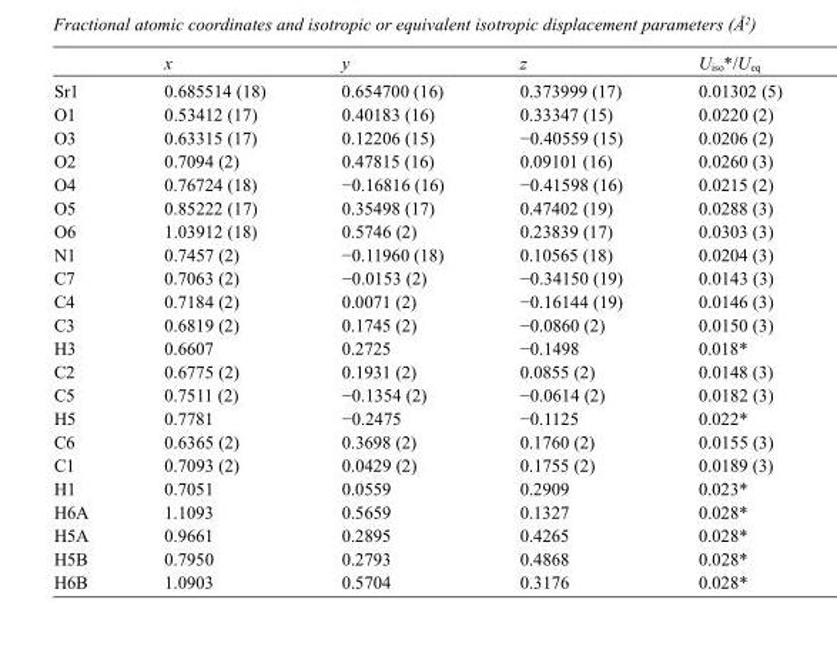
<table><thead><tr><td></td><td>x</td><td>y</td><td>z</td><td>U<sub>iso</sub>*/U<sub>eq</sub></td></tr></thead><tbody><tr><td>Sr1</td><td>0.685514 (18)</td><td>0.654700 (16)</td><td>0.373999 (17)</td><td>0.01302 (5)</td></tr><tr><td>O1</td><td>0.53412 (17)</td><td>0.40183 (16)</td><td>0.33347 (15)</td><td>0.0220 (2)</td></tr><tr><td>O3</td><td>0.63315 (17)</td><td>0.12206 (15)</td><td>−0.40559 (15)</td><td>0.0206 (2)</td></tr><tr><td>O2</td><td>0.7094 (2)</td><td>0.47815 (16)</td><td>0.09101 (16)</td><td>0.0260 (3)</td></tr><tr><td>O4</td><td>0.76724 (18)</td><td>−0.16816 (16)</td><td>−0.41598 (16)</td><td>0.0215 (2)</td></tr><tr><td>O5</td><td>0.85222 (17)</td><td>0.35498 (17)</td><td>0.47402 (19)</td><td>0.0288 (3)</td></tr><tr><td>O6</td><td>1.03912 (18)</td><td>0.5746 (2)</td><td>0.23839 (17)</td><td>0.0303 (3)</td></tr><tr><td>N1</td><td>0.7457 (2)</td><td>−0.11960 (18)</td><td>0.10565 (18)</td><td>0.0204 (3)</td></tr><tr><td>C7</td><td>0.7063 (2)</td><td>−0.0153 (2)</td><td>−0.34150 (19)</td><td>0.0143 (3)</td></tr><tr><td>C4</td><td>0.7184 (2)</td><td>0.0071 (2)</td><td>−0.16144 (19)</td><td>0.0146 (3)</td></tr><tr><td>C3</td><td>0.6819 (2)</td><td>0.1745 (2)</td><td>−0.0860 (2)</td><td>0.0150 (3)</td></tr><tr><td>H3</td><td>0.6607</td><td>0.2725</td><td>−0.1498</td><td>0.018*</td></tr><tr><td>C2</td><td>0.6775 (2)</td><td>0.1931 (2)</td><td>0.0855 (2)</td><td>0.0148 (3)</td></tr><tr><td>C5</td><td>0.7511 (2)</td><td>−0.1354 (2)</td><td>−0.0614 (2)</td><td>0.0182 (3)</td></tr><tr><td>H5</td><td>0.7781</td><td>−0.2475</td><td>−0.1125</td><td>0.022*</td></tr><tr><td>C6</td><td>0.6365 (2)</td><td>0.3698 (2)</td><td>0.1760 (2)</td><td>0.0155 (3)</td></tr><tr><td>C1</td><td>0.7093 (2)</td><td>0.0429 (2)</td><td>0.1755 (2)</td><td>0.0189 (3)</td></tr><tr><td>H1</td><td>0.7051</td><td>0.0559</td><td>0.2909</td><td>0.023*</td></tr><tr><td>H6A</td><td>1.1093</td><td>0.5659</td><td>0.1327</td><td>0.028*</td></tr><tr><td>H5A</td><td>0.9661</td><td>0.2895</td><td>0.4265</td><td>0.028*</td></tr><tr><td>H5B</td><td>0.7950</td><td>0.2793</td><td>0.4868</td><td>0.028*</td></tr><tr><td>H6B</td><td>1.0903</td><td>0.5704</td><td>0.3176</td><td>0.028*</td></tr></tbody></table>